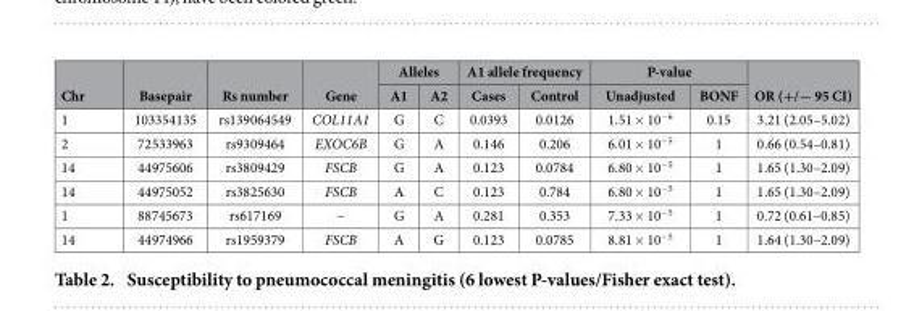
<table><thead><tr><td rowspan="2">Chr</td><td rowspan="2">Basepair</td><td rowspan="2">Rs number</td><td rowspan="2">Gene</td><td colspan="2">Alleles</td><td colspan="2">A1 allele frequency</td><td colspan="2">P-value</td><td rowspan="2">OR (+/− 95 CI)</td></tr><tr><td>A1</td><td>A2</td><td>Cases</td><td>Control</td><td>Unadjusted</td><td>BONF</td></tr></thead><tbody><tr><td>1</td><td>103354135</td><td>rs139064549</td><td>COL11A1</td><td>G</td><td>C</td><td>0.0393</td><td>0.0126</td><td>1.51 × 10<sup>−6</sup></td><td>0.15</td><td>3.21 (2.05–5.02)</td></tr><tr><td>2</td><td>72533963</td><td>rs9309464</td><td>EXOC6B</td><td>G</td><td>A</td><td>0.146</td><td>0.206</td><td>6.01 × 10<sup>−5</sup></td><td>1</td><td>0.66 (0.54–0.81)</td></tr><tr><td>14</td><td>44975606</td><td>rs3809429</td><td>FSCB</td><td>G</td><td>A</td><td>0.123</td><td>0.0784</td><td>6.80 × 10<sup>−5</sup></td><td>1</td><td>1.65 (1.30–2.09)</td></tr><tr><td>14</td><td>44975052</td><td>rs3825630</td><td>FSCB</td><td>A</td><td>C</td><td>0.123</td><td>0.784</td><td>6.80 × 10<sup>−5</sup></td><td>1</td><td>1.65 (1.30–2.09)</td></tr><tr><td>1</td><td>88745673</td><td>rs617169</td><td>–</td><td>G</td><td>A</td><td>0.281</td><td>0.353</td><td>7.33 × 10<sup>−5</sup></td><td>1</td><td>0.72 (0.61–0.85)</td></tr><tr><td>14</td><td>44974966</td><td>rs1959379</td><td>FSCB</td><td>A</td><td>G</td><td>0.123</td><td>0.0785</td><td>8.81 × 10<sup>−5</sup></td><td>1</td><td>1.64 (1.30–2.09)</td></tr></tbody></table>